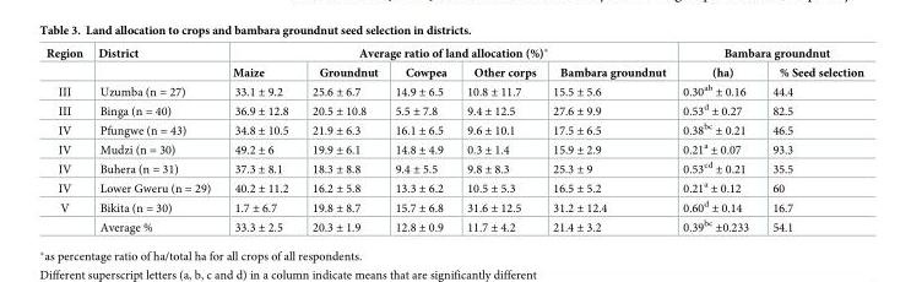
<table><thead><tr><td rowspan="2">Region</td><td rowspan="2">District</td><td colspan="5">Average ratio of land allocation (%)*</td><td colspan="2">Bambara groundnut</td></tr><tr><td>Maize</td><td>Groundnut</td><td>Cowpea</td><td>Other corps</td><td>Bambara groundnut</td><td>(ha)</td><td>% Seed selection</td></tr></thead><tbody><tr><td>III</td><td>Uzumba (n = 27)</td><td>33.1 ± 9.2</td><td>25.6 ± 6.7</td><td>14.9 ± 6.5</td><td>10.8 ± 11.7</td><td>15.5 ± 5.6</td><td>0.30<sup>ab</sup> ± 0.16</td><td>44.4</td></tr><tr><td>III</td><td>Binga (n = 40)</td><td>36.9 ± 12.8</td><td>20.5 ± 10.8</td><td>5.5 ± 7.8</td><td>9.4 ± 12.5</td><td>27.6 ± 9.9</td><td>0.53<sup>d</sup> ± 0.27</td><td>82.5</td></tr><tr><td>IV</td><td>Pfungwe (n = 43)</td><td>34.8 ± 10.5</td><td>21.9 ± 6.3</td><td>16.1 ± 6.5</td><td>9.6 ± 10.1</td><td>17.5 ± 6.5</td><td>0.38<sup>bc</sup> ± 0.21</td><td>46.5</td></tr><tr><td>IV</td><td>Mudzi (n = 30)</td><td>49.2 ± 6</td><td>19.9 ± 6.1</td><td>14.8 ± 4.9</td><td>0.3 ± 1.4</td><td>15.9 ± 2.9</td><td>0.21<sup>a</sup> ± 0.07</td><td>93.3</td></tr><tr><td>IV</td><td>Buhera (n = 31)</td><td>37.3 ± 8.1</td><td>18.3 ± 8.8</td><td>9.4 ± 5.5</td><td>9.8 ± 8.3</td><td>25.3 ± 9</td><td>0.53<sup>cd</sup> ± 0.21</td><td>35.5</td></tr><tr><td>IV</td><td>Lower Gweru (n = 29)</td><td>40.2 ± 11.2</td><td>16.2 ± 5.8</td><td>13.3 ± 6.2</td><td>10.5 ± 5.3</td><td>16.5 ± 5.2</td><td>0.21<sup>a</sup> ± 0.12</td><td>60</td></tr><tr><td rowspan="2">V</td><td>Bikita (n = 30)</td><td>1.7 ± 6.7</td><td>19.8 ± 8.7</td><td>15.7 ± 6.8</td><td>31.6 ± 12.5</td><td>31.2 ± 12.4</td><td>0.60<sup>d</sup> ± 0.14</td><td>16.7</td></tr><tr><td>Average %</td><td>33.3 ± 2.5</td><td>20.3 ± 1.9</td><td>12.8 ± 0.9</td><td>11.7 ± 4.2</td><td>21.4 ± 3.2</td><td>0.39<sup>bc</sup> ±0.233</td><td>54.1</td></tr></tbody></table>